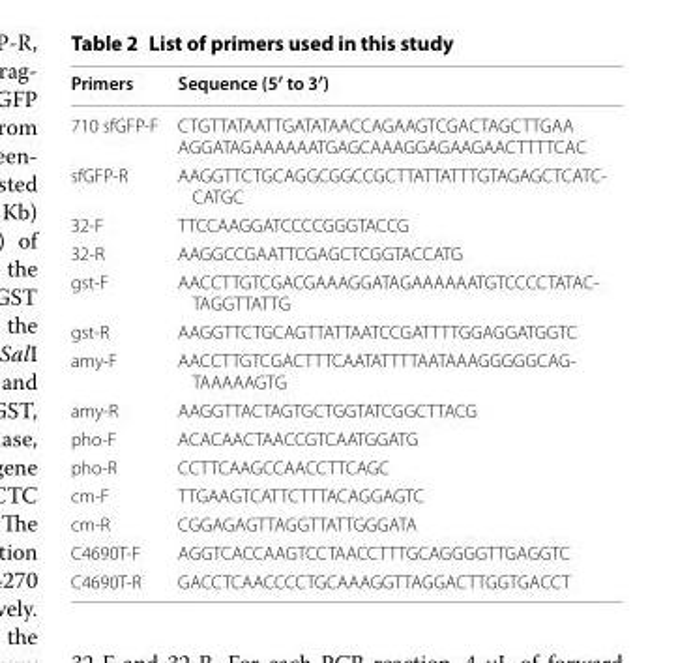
<table><thead><tr><td>Primers</td><td>Sequence (5′ to 3′)</td></tr></thead><tbody><tr><td>710 sfGFP-F</td><td>CTGTTATAATTGATATAACCAGAAGTCGACTAGCTTGAA AGGATAGAAAAAATGAGCAAAGGAGAAGAACTTTTCAC</td></tr><tr><td>sfGFP-R</td><td>AAGGTTCTGCAGGCGGCCGCTTATTATTTGTAGAGCTCATC- CATGC</td></tr><tr><td>32-F</td><td>TTCCAAGGATCCCCGGGTACCG</td></tr><tr><td>32-R</td><td>AAGGCCGAATTCGAGCTCGGTACCATG</td></tr><tr><td>gst-F</td><td>AACCTTGTCGACGAAAGGATAGAAAAAATGTCCCCTATAC- TAGGTTATTG</td></tr><tr><td>gst-R</td><td>AAGGTTCTGCAGTTATTAATCCGATTTTGGAGGATGGTC</td></tr><tr><td>amy-F</td><td>AACCTTGTCGACTTTCAATATTTTAATAAAGGGGGCAG- TAAAAAGTG</td></tr><tr><td>amy-R</td><td>AAGGTTACTAGTGCTGGTATCGGCTTACG</td></tr><tr><td>pho-F</td><td>ACACAACTAACCGTCAATGGATG</td></tr><tr><td>pho-R</td><td>CCTTCAAGCCAACCTTCAGC</td></tr><tr><td>cm-F</td><td>TTGAAGTCATTCTTTACAGGAGTC</td></tr><tr><td>cm-R</td><td>CGGAGAGTTAGGTTATTGGGATA</td></tr><tr><td>C4690T-F</td><td>AGGTCACCAAGTCCTAACCTTTGCAGGGGTTGAGGTC</td></tr><tr><td>C4690T-R</td><td>GACCTCAACCCCTGCAAAGGTTAGGACTTGGTGACCT</td></tr></tbody></table>